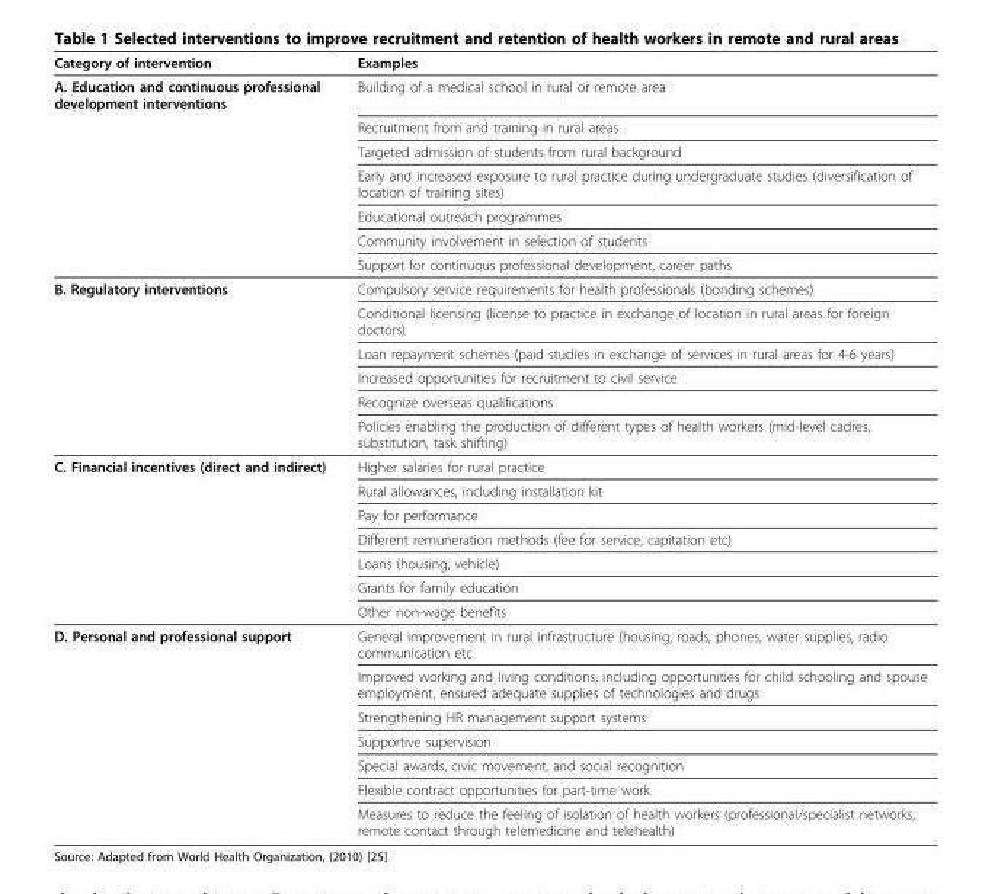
<table><thead><tr><td>Category of intervention</td><td>Examples</td></tr></thead><tbody><tr><td rowspan="7">A. Education and continuous professional development interventions</td><td>Building of a medical school in rural or remote area</td></tr><tr><td>Recruitment from and training in rural areas</td></tr><tr><td>Targeted admission of students from rural background</td></tr><tr><td>Early and increased exposure to rural practice during undergraduate studies (diversification of location of training sites)</td></tr><tr><td>Educational outreach programmes</td></tr><tr><td>Community involvement in selection of students</td></tr><tr><td>Support for continuous professional development, career paths</td></tr><tr><td rowspan="6">B. Regulatory interventions</td><td>Compulsory service requirements for health professionals (bonding schemes)</td></tr><tr><td>Conditional licensing (license to practice in exchange of location in rural areas for foreign doctors)</td></tr><tr><td>Loan repayment schemes (paid studies in exchange of services in rural areas for 4-6 years)</td></tr><tr><td>Increased opportunities for recruitment to civil service</td></tr><tr><td>Recognize overseas qualifications</td></tr><tr><td>Policies enabling the production of different types of health workers (mid-level cadres, substitution, task shifting)</td></tr><tr><td rowspan="7">C. Financial incentives (direct and indirect)</td><td>Higher salaries for rural practice</td></tr><tr><td>Rural allowances, including installation kit</td></tr><tr><td>Pay for performance</td></tr><tr><td>Different remuneration methods (fee for service, capitation etc)</td></tr><tr><td>Loans (housing, vehicle)</td></tr><tr><td>Grants for family education</td></tr><tr><td>Other non-wage benefits</td></tr><tr><td rowspan="7">D. Personal and professional support</td><td>General improvement in rural infrastructure (housing, roads, phones, water supplies, radio communication etc</td></tr><tr><td>Improved working and living conditions, including opportunities for child schooling and spouse employment, ensured adequate supplies of technologies and drugs</td></tr><tr><td>Strengthening HR management support systems</td></tr><tr><td>Supportive supervision</td></tr><tr><td>Special awards, civic movement, and social recognition</td></tr><tr><td>Flexible contract opportunities for part-time work</td></tr><tr><td>Measures to reduce the feeling of isolation of health workers (professional/specialist networks, remote contact through telemedicine and telehealth)</td></tr></tbody></table>